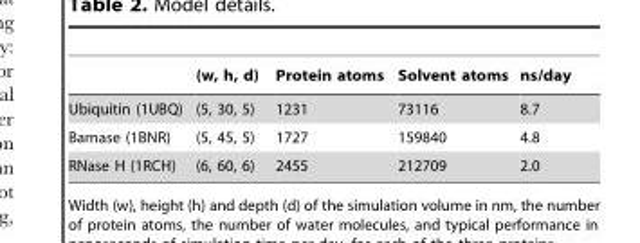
<table><thead><tr><td></td><td>(w, h, d)</td><td>Protein atoms</td><td>Solvent atoms</td><td>ns/day</td></tr></thead><tbody><tr><td>Ubiquitin (1UBQ)</td><td>(5, 30, 5)</td><td>1231</td><td>73116</td><td>8.7</td></tr><tr><td>Barnase (1BNR)</td><td>(5, 45, 5)</td><td>1727</td><td>159840</td><td>4.8</td></tr><tr><td>RNase H (1RCH)</td><td>(6, 60, 6)</td><td>2455</td><td>212709</td><td>2.0</td></tr></tbody></table>